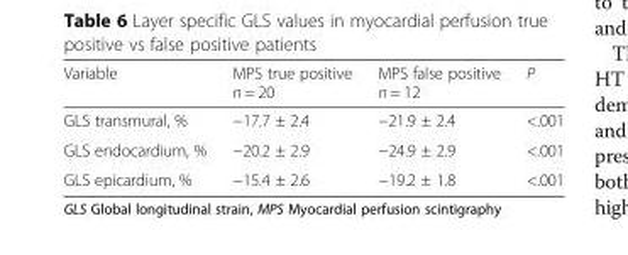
<table><thead><tr><td>Variable</td><td>MPS true positive n = 20</td><td>MPS false positive n = 12</td><td>P</td></tr></thead><tbody><tr><td>GLS transmural, %</td><td>−17.7 ± 2.4</td><td>−21.9 ± 2.4</td><td>&lt;.001</td></tr><tr><td>GLS endocardium, %</td><td>−20.2 ± 2.9</td><td>−24.9 ± 2.9</td><td>&lt;.001</td></tr><tr><td>GLS epicardium, %</td><td>−15.4 ± 2.6</td><td>−19.2 ± 1.8</td><td>&lt;.001</td></tr></tbody></table>